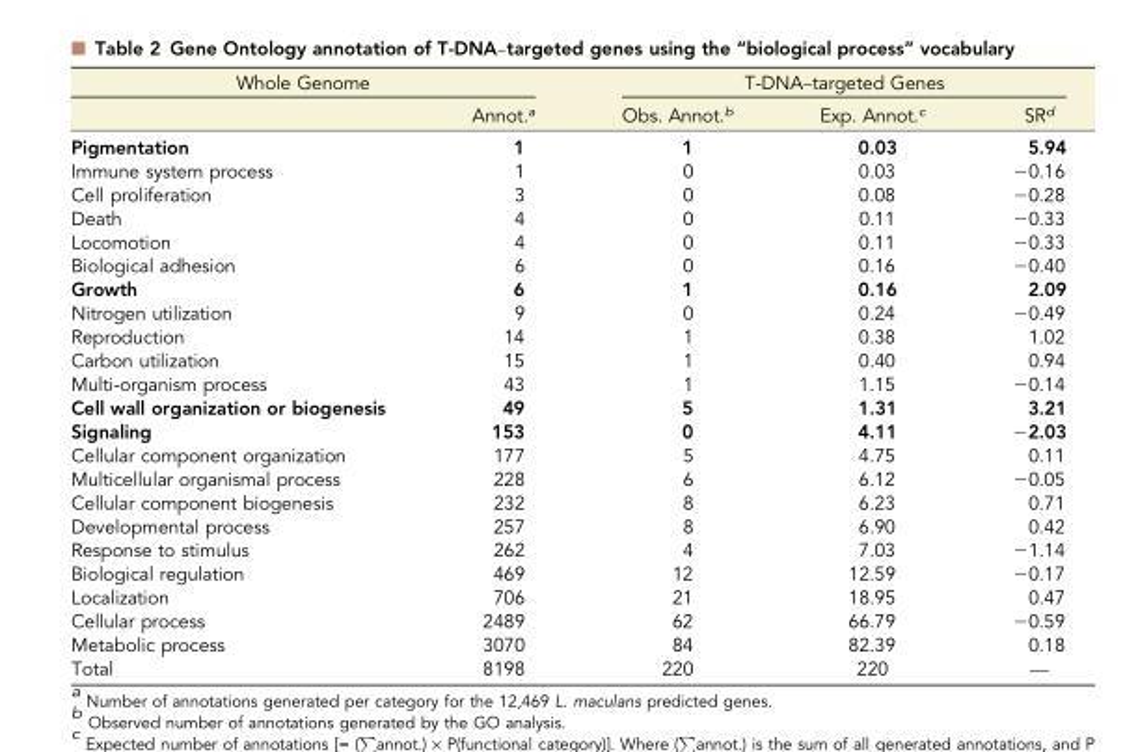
<table><thead><tr><td colspan="2">Whole Genome</td><td colspan="3">T-DNA–targeted Genes</td></tr><tr><td></td><td>Annot.<sup>a</sup></td><td>Obs. Annot.<sup>b</sup></td><td>Exp. Annot.<sup>c</sup></td><td>SR<sup>d</sup></td></tr></thead><tbody><tr><td>Pigmentation</td><td>1</td><td>1</td><td>0.03</td><td>5.94</td></tr><tr><td>Immune system process</td><td>1</td><td>0</td><td>0.03</td><td>−0.16</td></tr><tr><td>Cell proliferation</td><td>3</td><td>0</td><td>0.08</td><td>−0.28</td></tr><tr><td>Death</td><td>4</td><td>0</td><td>0.11</td><td>−0.33</td></tr><tr><td>Locomotion</td><td>4</td><td>0</td><td>0.11</td><td>−0.33</td></tr><tr><td>Biological adhesion</td><td>6</td><td>0</td><td>0.16</td><td>−0.40</td></tr><tr><td>Growth</td><td>6</td><td>1</td><td>0.16</td><td>2.09</td></tr><tr><td>Nitrogen utilization</td><td>9</td><td>0</td><td>0.24</td><td>−0.49</td></tr><tr><td>Reproduction</td><td>14</td><td>1</td><td>0.38</td><td>1.02</td></tr><tr><td>Carbon utilization</td><td>15</td><td>1</td><td>0.40</td><td>0.94</td></tr><tr><td>Multi-organism process</td><td>43</td><td>1</td><td>1.15</td><td>−0.14</td></tr><tr><td>Cell wall organization or biogenesis</td><td>49</td><td>5</td><td>1.31</td><td>3.21</td></tr><tr><td>Signaling</td><td>153</td><td>0</td><td>4.11</td><td>−2.03</td></tr><tr><td>Cellular component organization</td><td>177</td><td>5</td><td>4.75</td><td>0.11</td></tr><tr><td>Multicellular organismal process</td><td>228</td><td>6</td><td>6.12</td><td>−0.05</td></tr><tr><td>Cellular component biogenesis</td><td>232</td><td>8</td><td>6.23</td><td>0.71</td></tr><tr><td>Developmental process</td><td>257</td><td>8</td><td>6.90</td><td>0.42</td></tr><tr><td>Response to stimulus</td><td>262</td><td>4</td><td>7.03</td><td>−1.14</td></tr><tr><td>Biological regulation</td><td>469</td><td>12</td><td>12.59</td><td>−0.17</td></tr><tr><td>Localization</td><td>706</td><td>21</td><td>18.95</td><td>0.47</td></tr><tr><td>Cellular process</td><td>2489</td><td>62</td><td>66.79</td><td>−0.59</td></tr><tr><td>Metabolic process</td><td>3070</td><td>84</td><td>82.39</td><td>0.18</td></tr><tr><td>Total</td><td>8198</td><td>220</td><td>220</td><td>—</td></tr></tbody></table>